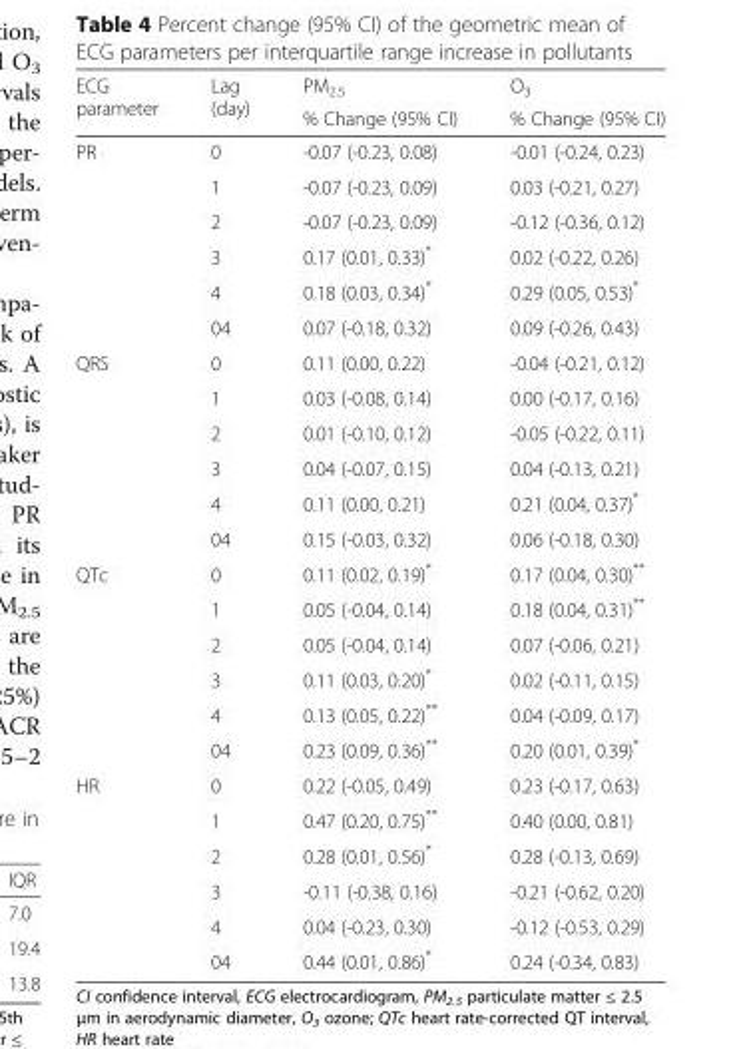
<table><thead><tr><td rowspan="2">ECG parameter</td><td rowspan="2">Lag (day)</td><td rowspan="2">PM<sub>2.5</sub> % Change (95% CI)</td><td rowspan="2">O<sub>3</sub> % Change (95% CI)</td></tr><tr></tr></thead><tbody><tr><td rowspan="6">PR</td><td>0</td><td>-0.07 (-0.23, 0.08)</td><td>-0.01 (-0.24, 0.23)</td></tr><tr><td>1</td><td>-0.07 (-0.23, 0.09)</td><td>0.03 (-0.21, 0.27)</td></tr><tr><td>2</td><td>-0.07 (-0.23, 0.09)</td><td>-0.12 (-0.36, 0.12)</td></tr><tr><td>3</td><td>0.17 (0.01, 0.33)*</td><td>0.02 (-0.22, 0.26)</td></tr><tr><td>4</td><td>0.18 (0.03, 0.34)*</td><td>0.29 (0.05, 0.53)*</td></tr><tr><td>04</td><td>0.07 (-0.18, 0.32)</td><td>0.09 (-0.26, 0.43)</td></tr><tr><td rowspan="6">QRS</td><td>0</td><td>0.11 (0.00, 0.22)</td><td>-0.04 (-0.21, 0.12)</td></tr><tr><td>1</td><td>0.03 (-0.08, 0.14)</td><td>0.00 (-0.17, 0.16)</td></tr><tr><td>2</td><td>0.01 (-0.10, 0.12)</td><td>-0.05 (-0.22, 0.11)</td></tr><tr><td>3</td><td>0.04 (-0.07, 0.15)</td><td>0.04 (-0.13, 0.21)</td></tr><tr><td>4</td><td>0.11 (0.00, 0.21)</td><td>0.21 (0.04, 0.37)*</td></tr><tr><td>04</td><td>0.15 (-0.03, 0.32)</td><td>0.06 (-0.18, 0.30)</td></tr><tr><td rowspan="6">QTc</td><td>0</td><td>0.11 (0.02, 0.19)*</td><td>0.17 (0.04, 0.30)**</td></tr><tr><td>1</td><td>0.05 (-0.04, 0.14)</td><td>0.18 (0.04, 0.31)**</td></tr><tr><td>2</td><td>0.05 (-0.04, 0.14)</td><td>0.07 (-0.06, 0.21)</td></tr><tr><td>3</td><td>0.11 (0.03, 0.20)*</td><td>0.02 (-0.11, 0.15)</td></tr><tr><td>4</td><td>0.13 (0.05, 0.22)**</td><td>0.04 (-0.09, 0.17)</td></tr><tr><td>04</td><td>0.23 (0.09, 0.36)**</td><td>0.20 (0.01, 0.39)*</td></tr><tr><td rowspan="6">HR</td><td>0</td><td>0.22 (-0.05, 0.49)</td><td>0.23 (-0.17, 0.63)</td></tr><tr><td>1</td><td>0.47 (0.20, 0.75)**</td><td>0.40 (0.00, 0.81)</td></tr><tr><td>2</td><td>0.28 (0.01, 0.56)*</td><td>0.28 (-0.13, 0.69)</td></tr><tr><td>3</td><td>-0.11 (-0.38, 0.16)</td><td>-0.21 (-0.62, 0.20)</td></tr><tr><td>4</td><td>0.04 (-0.23, 0.30)</td><td>-0.12 (-0.53, 0.29)</td></tr><tr><td>04</td><td>0.44 (0.01, 0.86)*</td><td>0.24 (-0.34, 0.83)</td></tr></tbody></table>